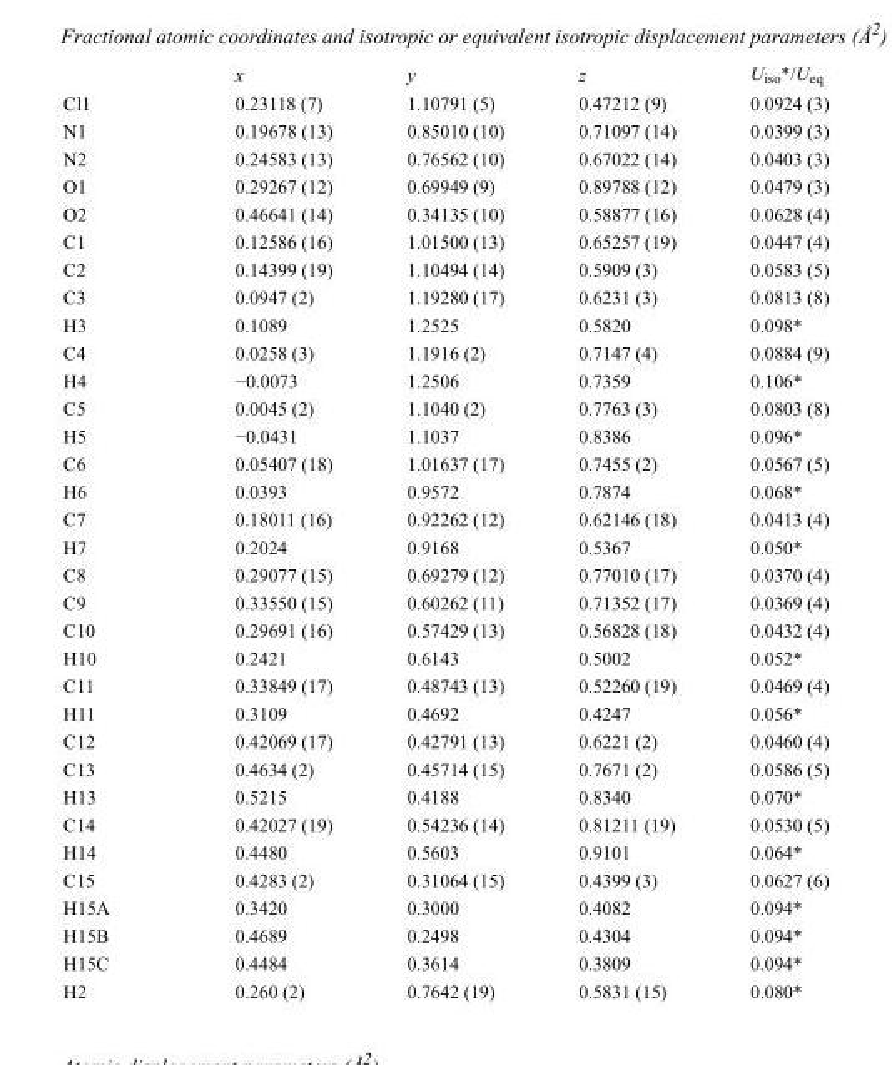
<table><thead><tr><td></td><td>x</td><td>y</td><td>z</td><td>U<sub>iso</sub>*/U<sub>eq</sub></td></tr></thead><tbody><tr><td>Cl1</td><td>0.23118 (7)</td><td>1.10791 (5)</td><td>0.47212 (9)</td><td>0.0924 (3)</td></tr><tr><td>N1</td><td>0.19678 (13)</td><td>0.85010 (10)</td><td>0.71097 (14)</td><td>0.0399 (3)</td></tr><tr><td>N2</td><td>0.24583 (13)</td><td>0.76562 (10)</td><td>0.67022 (14)</td><td>0.0403 (3)</td></tr><tr><td>O1</td><td>0.29267 (12)</td><td>0.69949 (9)</td><td>0.89788 (12)</td><td>0.0479 (3)</td></tr><tr><td>O2</td><td>0.46641 (14)</td><td>0.34135 (10)</td><td>0.58877 (16)</td><td>0.0628 (4)</td></tr><tr><td>C1</td><td>0.12586 (16)</td><td>1.01500 (13)</td><td>0.65257 (19)</td><td>0.0447 (4)</td></tr><tr><td>C2</td><td>0.14399 (19)</td><td>1.10494 (14)</td><td>0.5909 (3)</td><td>0.0583 (5)</td></tr><tr><td>C3</td><td>0.0947 (2)</td><td>1.19280 (17)</td><td>0.6231 (3)</td><td>0.0813 (8)</td></tr><tr><td>H3</td><td>0.1089</td><td>1.2525</td><td>0.5820</td><td>0.098*</td></tr><tr><td>C4</td><td>0.0258 (3)</td><td>1.1916 (2)</td><td>0.7147 (4)</td><td>0.0884 (9)</td></tr><tr><td>H4</td><td>−0.0073</td><td>1.2506</td><td>0.7359</td><td>0.106*</td></tr><tr><td>C5</td><td>0.0045 (2)</td><td>1.1040 (2)</td><td>0.7763 (3)</td><td>0.0803 (8)</td></tr><tr><td>H5</td><td>−0.0431</td><td>1.1037</td><td>0.8386</td><td>0.096*</td></tr><tr><td>C6</td><td>0.05407 (18)</td><td>1.01637 (17)</td><td>0.7455 (2)</td><td>0.0567 (5)</td></tr><tr><td>H6</td><td>0.0393</td><td>0.9572</td><td>0.7874</td><td>0.068*</td></tr><tr><td>C7</td><td>0.18011 (16)</td><td>0.92262 (12)</td><td>0.62146 (18)</td><td>0.0413 (4)</td></tr><tr><td>H7</td><td>0.2024</td><td>0.9168</td><td>0.5367</td><td>0.050*</td></tr><tr><td>C8</td><td>0.29077 (15)</td><td>0.69279 (12)</td><td>0.77010 (17)</td><td>0.0370 (4)</td></tr><tr><td>C9</td><td>0.33550 (15)</td><td>0.60262 (11)</td><td>0.71352 (17)</td><td>0.0369 (4)</td></tr><tr><td>C10</td><td>0.29691 (16)</td><td>0.57429 (13)</td><td>0.56828 (18)</td><td>0.0432 (4)</td></tr><tr><td>H10</td><td>0.2421</td><td>0.6143</td><td>0.5002</td><td>0.052*</td></tr><tr><td>C11</td><td>0.33849 (17)</td><td>0.48743 (13)</td><td>0.52260 (19)</td><td>0.0469 (4)</td></tr><tr><td>H11</td><td>0.3109</td><td>0.4692</td><td>0.4247</td><td>0.056*</td></tr><tr><td>C12</td><td>0.42069 (17)</td><td>0.42791 (13)</td><td>0.6221 (2)</td><td>0.0460 (4)</td></tr><tr><td>C13</td><td>0.4634 (2)</td><td>0.45714 (15)</td><td>0.7671 (2)</td><td>0.0586 (5)</td></tr><tr><td>H13</td><td>0.5215</td><td>0.4188</td><td>0.8340</td><td>0.070*</td></tr><tr><td>C14</td><td>0.42027 (19)</td><td>0.54236 (14)</td><td>0.81211 (19)</td><td>0.0530 (5)</td></tr><tr><td>H14</td><td>0.4480</td><td>0.5603</td><td>0.9101</td><td>0.064*</td></tr><tr><td>C15</td><td>0.4283 (2)</td><td>0.31064 (15)</td><td>0.4399 (3)</td><td>0.0627 (6)</td></tr><tr><td>H15A</td><td>0.3420</td><td>0.3000</td><td>0.4082</td><td>0.094*</td></tr><tr><td>H15B</td><td>0.4689</td><td>0.2498</td><td>0.4304</td><td>0.094*</td></tr><tr><td>H15C</td><td>0.4484</td><td>0.3614</td><td>0.3809</td><td>0.094*</td></tr><tr><td>H2</td><td>0.260 (2)</td><td>0.7642 (19)</td><td>0.5831 (15)</td><td>0.080*</td></tr></tbody></table>